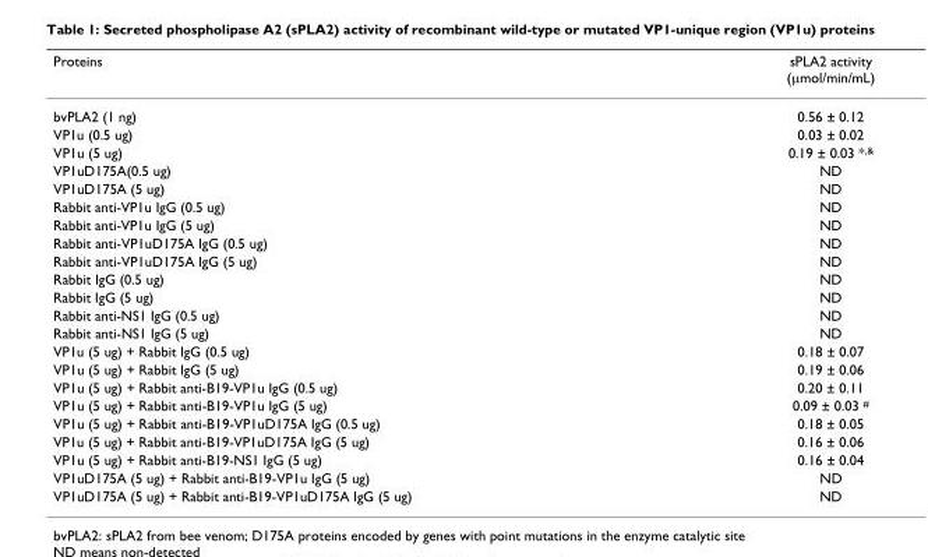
<table><thead><tr><td>Proteins</td><td>sPLA2 activity (μmol/min/mL)</td></tr></thead><tbody><tr><td>bvPLA2 (1 ng)</td><td>0.56 ± 0.12</td></tr><tr><td>VP1u (0.5 ug)</td><td>0.03 ± 0.02</td></tr><tr><td>VP1u (5 ug)</td><td>0.19 ± 0.03 *<sup>,&amp;</sup></td></tr><tr><td>VP1uD175A(0.5 ug)</td><td>ND</td></tr><tr><td>VP1uD175A (5 ug)</td><td>ND</td></tr><tr><td>Rabbit anti-VP1u IgG (0.5 ug)</td><td>ND</td></tr><tr><td>Rabbit anti-VP1u IgG (5 ug)</td><td>ND</td></tr><tr><td>Rabbit anti-VP1uD175A IgG (0.5 ug)</td><td>ND</td></tr><tr><td>Rabbit anti-VP1uD175A IgG (5 ug)</td><td>ND</td></tr><tr><td>Rabbit IgG (0.5 ug)</td><td>ND</td></tr><tr><td>Rabbit IgG (5 ug)</td><td>ND</td></tr><tr><td>Rabbit anti-NS1 IgG (0.5 ug)</td><td>ND</td></tr><tr><td>Rabbit anti-NS1 IgG (5 ug)</td><td>ND</td></tr><tr><td>VP1u (5 ug) + Rabbit IgG (0.5 ug)</td><td>0.18 ± 0.07</td></tr><tr><td>VP1u (5 ug) + Rabbit IgG (5 ug)</td><td>0.19 ± 0.06</td></tr><tr><td>VP1u (5 ug) + Rabbit anti-B19-VP1u IgG (0.5 ug)</td><td>0.20 ± 0.11</td></tr><tr><td>VP1u (5 ug) + Rabbit anti-B19-VP1u IgG (5 ug)</td><td>0.09 ± 0.03 <sup>#</sup></td></tr><tr><td>VP1u (5 ug) + Rabbit anti-B19-VP1uD175A IgG (0.5 ug)</td><td>0.18 ± 0.05</td></tr><tr><td>VP1u (5 ug) + Rabbit anti-B19-VP1uD175A IgG (5 ug)</td><td>0.16 ± 0.06</td></tr><tr><td>VP1u (5 ug) + Rabbit anti-B19-NS1 IgG (5 ug)</td><td>0.16 ± 0.04</td></tr><tr><td>VP1uD175A (5 ug) + Rabbit anti-B19-VP1u IgG (5 ug)</td><td>ND</td></tr><tr><td>VP1uD175A (5 ug) + Rabbit anti-B19-VP1uD175A IgG (5 ug)</td><td>ND</td></tr></tbody></table>